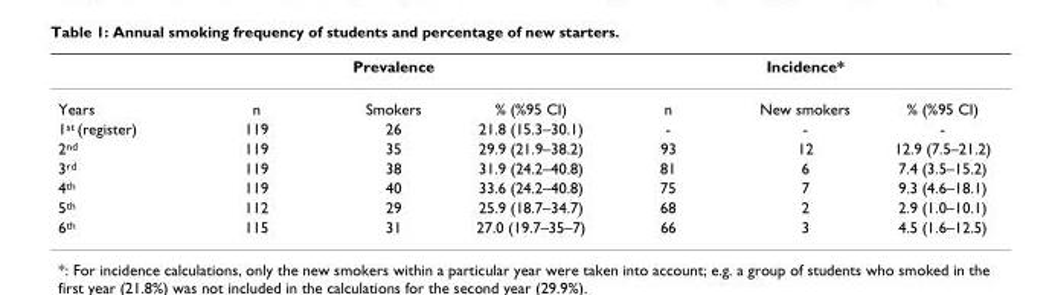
<table><thead><tr><td rowspan="2">Years</td><td colspan="3">Prevalence</td><td colspan="3">Incidence*</td></tr><tr><td>n</td><td>Smokers</td><td>% (%95 CI)</td><td>n</td><td>New smokers</td><td>% (%95 CI)</td></tr></thead><tbody><tr><td>1st (register)</td><td>119</td><td>26</td><td>21.8 (15.3–30.1)</td><td>-</td><td>-</td><td>-</td></tr><tr><td>2nd</td><td>119</td><td>35</td><td>29.9 (21.9–38.2)</td><td>93</td><td>12</td><td>12.9 (7.5–21.2)</td></tr><tr><td>3rd</td><td>119</td><td>38</td><td>31.9 (24.2–40.8)</td><td>81</td><td>6</td><td>7.4 (3.5–15.2)</td></tr><tr><td>4th</td><td>119</td><td>40</td><td>33.6 (24.2–40.8)</td><td>75</td><td>7</td><td>9.3 (4.6–18.1)</td></tr><tr><td>5th</td><td>112</td><td>29</td><td>25.9 (18.7–34.7)</td><td>68</td><td>2</td><td>2.9 (1.0–10.1)</td></tr><tr><td>6th</td><td>115</td><td>31</td><td>27.0 (19.7–35–7)</td><td>66</td><td>3</td><td>4.5 (1.6–12.5)</td></tr></tbody></table>